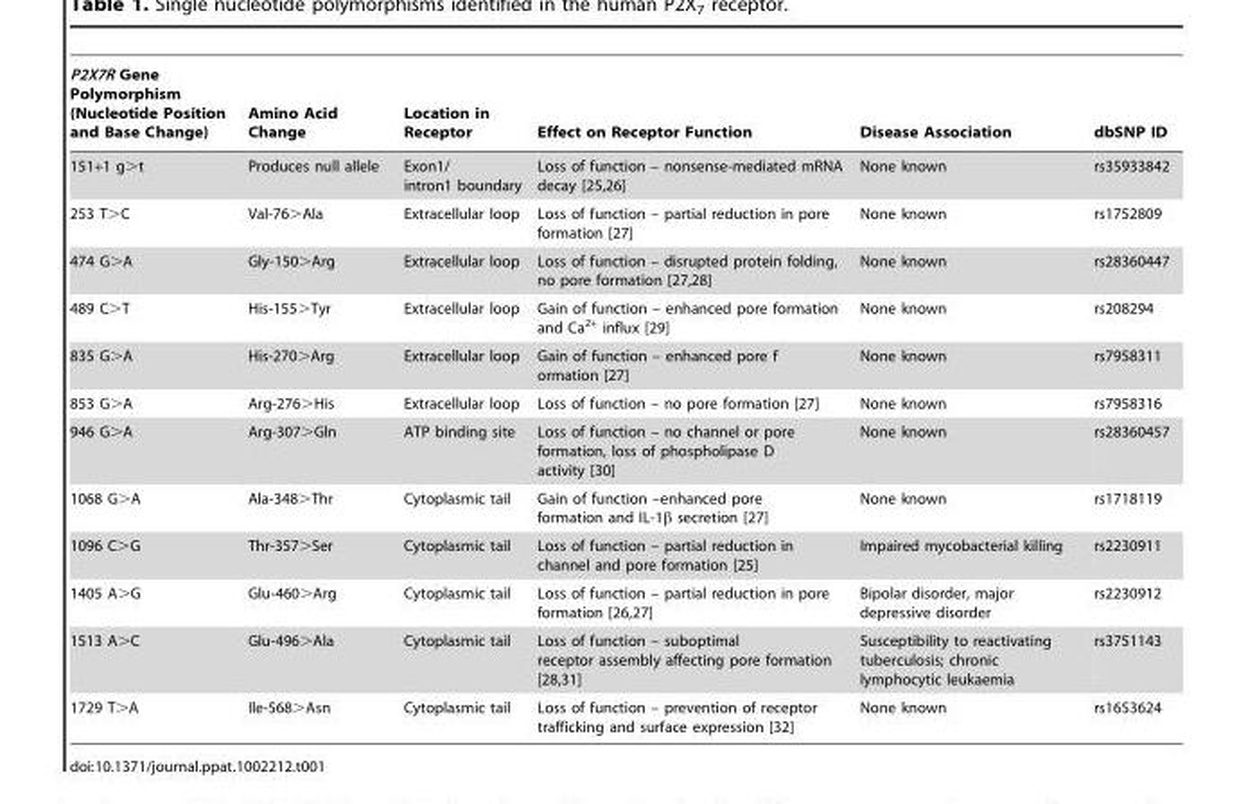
<table><thead><tr><td>P2X7R Gene Polymorphism (Nucleotide Position and Base Change)</td><td>Amino Acid Change</td><td>Location in Receptor</td><td>Effect on Receptor Function</td><td>Disease Association</td><td>dbSNP ID</td></tr></thead><tbody><tr><td>151+1 g&gt;t</td><td>Produces null allele</td><td>Exon1/ intron1 boundary</td><td>Loss of function – nonsense-mediated mRNA decay [25,26]</td><td>None known</td><td>rs35933842</td></tr><tr><td>253 T&gt;C</td><td>Val-76&gt;Ala</td><td>Extracellular loop</td><td>Loss of function – partial reduction in pore formation [27]</td><td>None known</td><td>rs1752809</td></tr><tr><td>474 G&gt;A</td><td>Gly-150&gt;Arg</td><td>Extracellular loop</td><td>Loss of function – disrupted protein folding, no pore formation [27,28]</td><td>None known</td><td>rs28360447</td></tr><tr><td>489 C&gt;T</td><td>His-155&gt;Tyr</td><td>Extracellular loop</td><td>Gain of function – enhanced pore formation and Ca<sup>2+</sup> influx [29]</td><td>None known</td><td>rs208294</td></tr><tr><td>835 G&gt;A</td><td>His-270&gt;Arg</td><td>Extracellular loop</td><td>Gain of function – enhanced pore f ormation [27]</td><td>None known</td><td>rs7958311</td></tr><tr><td>853 G&gt;A</td><td>Arg-276&gt;His</td><td>Extracellular loop</td><td>Loss of function – no pore formation [27]</td><td>None known</td><td>rs7958316</td></tr><tr><td>946 G&gt;A</td><td>Arg-307&gt;Gln</td><td>ATP binding site</td><td>Loss of function – no channel or pore formation, loss of phospholipase D activity [30]</td><td>None known</td><td>rs28360457</td></tr><tr><td>1068 G&gt;A</td><td>Ala-348&gt;Thr</td><td>Cytoplasmic tail</td><td>Gain of function –enhanced pore formation and IL-1β secretion [27]</td><td>None known</td><td>rs1718119</td></tr><tr><td>1096 C&gt;G</td><td>Thr-357&gt;Ser</td><td>Cytoplasmic tail</td><td>Loss of function – partial reduction in channel and pore formation [25]</td><td>Impaired mycobacterial killing</td><td>rs2230911</td></tr><tr><td>1405 A&gt;G</td><td>Glu-460&gt;Arg</td><td>Cytoplasmic tail</td><td>Loss of function – partial reduction in pore formation [26,27]</td><td>Bipolar disorder, major depressive disorder</td><td>rs2230912</td></tr><tr><td>1513 A&gt;C</td><td>Glu-496&gt;Ala</td><td>Cytoplasmic tail</td><td>Loss of function – suboptimal receptor assembly affecting pore formation [28,31]</td><td>Susceptibility to reactivating tuberculosis; chronic lymphocytic leukaemia</td><td>rs3751143</td></tr><tr><td>1729 T&gt;A</td><td>Ile-568&gt;Asn</td><td>Cytoplasmic tail</td><td>Loss of function – prevention of receptor trafficking and surface expression [32]</td><td>None known</td><td>rs1653624</td></tr></tbody></table>